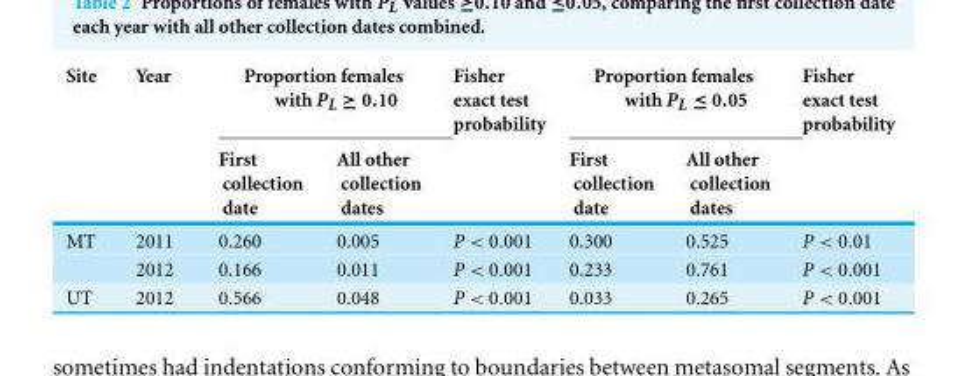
<table><thead><tr><td rowspan="2">Site</td><td rowspan="2">Year</td><td colspan="2">Proportion females with P<sub>L</sub> ≥ 0.10</td><td rowspan="2">Fisher exact test probability</td><td colspan="2">Proportion females with P<sub>L</sub> ≤ 0.05</td><td rowspan="2">Fisher exact test probability</td></tr><tr><td>First collection date</td><td>All other collection dates</td><td>First collection date</td><td>All other collection dates</td></tr></thead><tbody><tr><td rowspan="2">MT</td><td>2011</td><td>0.260</td><td>0.005</td><td>P &lt; 0.001</td><td>0.300</td><td>0.525</td><td>P &lt; 0.01</td></tr><tr><td>2012</td><td>0.166</td><td>0.011</td><td>P &lt; 0.001</td><td>0.233</td><td>0.761</td><td>P &lt; 0.001</td></tr><tr><td>UT</td><td>2012</td><td>0.566</td><td>0.048</td><td>P &lt; 0.001</td><td>0.033</td><td>0.265</td><td>P &lt; 0.001</td></tr></tbody></table>